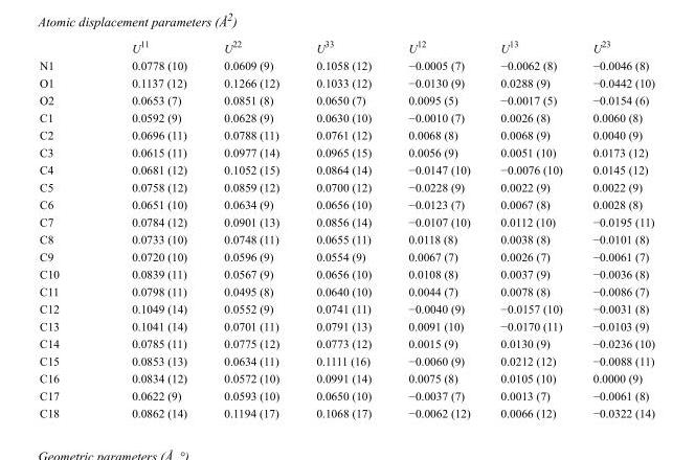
<table><thead><tr><td></td><td>U<sup>11</sup></td><td>U<sup>22</sup></td><td>U<sup>33</sup></td><td>U<sup>12</sup></td><td>U<sup>13</sup></td><td>U<sup>23</sup></td></tr></thead><tbody><tr><td>N1</td><td>0.0778 (10)</td><td>0.0609 (9)</td><td>0.1058 (12)</td><td>−0.0005 (7)</td><td>−0.0062 (8)</td><td>−0.0046 (8)</td></tr><tr><td>O1</td><td>0.1137 (12)</td><td>0.1266 (12)</td><td>0.1033 (12)</td><td>−0.0130 (9)</td><td>0.0288 (9)</td><td>−0.0442 (10)</td></tr><tr><td>O2</td><td>0.0653 (7)</td><td>0.0851 (8)</td><td>0.0650 (7)</td><td>0.0095 (5)</td><td>−0.0017 (5)</td><td>−0.0154 (6)</td></tr><tr><td>C1</td><td>0.0592 (9)</td><td>0.0628 (9)</td><td>0.0630 (10)</td><td>−0.0010 (7)</td><td>0.0026 (8)</td><td>0.0060 (8)</td></tr><tr><td>C2</td><td>0.0696 (11)</td><td>0.0788 (11)</td><td>0.0761 (12)</td><td>0.0068 (8)</td><td>0.0068 (9)</td><td>0.0040 (9)</td></tr><tr><td>C3</td><td>0.0615 (11)</td><td>0.0977 (14)</td><td>0.0965 (15)</td><td>0.0056 (9)</td><td>0.0051 (10)</td><td>0.0173 (12)</td></tr><tr><td>C4</td><td>0.0681 (12)</td><td>0.1052 (15)</td><td>0.0864 (14)</td><td>−0.0147 (10)</td><td>−0.0076 (10)</td><td>0.0145 (12)</td></tr><tr><td>C5</td><td>0.0758 (12)</td><td>0.0859 (12)</td><td>0.0700 (12)</td><td>−0.0228 (9)</td><td>0.0022 (9)</td><td>0.0022 (9)</td></tr><tr><td>C6</td><td>0.0651 (10)</td><td>0.0634 (9)</td><td>0.0656 (10)</td><td>−0.0123 (7)</td><td>0.0067 (8)</td><td>0.0028 (8)</td></tr><tr><td>C7</td><td>0.0784 (12)</td><td>0.0901 (13)</td><td>0.0856 (14)</td><td>−0.0107 (10)</td><td>0.0112 (10)</td><td>−0.0195 (11)</td></tr><tr><td>C8</td><td>0.0733 (10)</td><td>0.0748 (11)</td><td>0.0655 (11)</td><td>0.0118 (8)</td><td>0.0038 (8)</td><td>−0.0101 (8)</td></tr><tr><td>C9</td><td>0.0720 (10)</td><td>0.0596 (9)</td><td>0.0554 (9)</td><td>0.0067 (7)</td><td>0.0026 (7)</td><td>−0.0061 (7)</td></tr><tr><td>C10</td><td>0.0839 (11)</td><td>0.0567 (9)</td><td>0.0656 (10)</td><td>0.0108 (8)</td><td>0.0037 (9)</td><td>−0.0036 (8)</td></tr><tr><td>C11</td><td>0.0798 (11)</td><td>0.0495 (8)</td><td>0.0640 (10)</td><td>0.0044 (7)</td><td>0.0078 (8)</td><td>−0.0086 (7)</td></tr><tr><td>C12</td><td>0.1049 (14)</td><td>0.0552 (9)</td><td>0.0741 (11)</td><td>−0.0040 (9)</td><td>−0.0157 (10)</td><td>−0.0031 (8)</td></tr><tr><td>C13</td><td>0.1041 (14)</td><td>0.0701 (11)</td><td>0.0791 (13)</td><td>0.0091 (10)</td><td>−0.0170 (11)</td><td>−0.0103 (9)</td></tr><tr><td>C14</td><td>0.0785 (11)</td><td>0.0775 (12)</td><td>0.0773 (12)</td><td>0.0015 (9)</td><td>0.0130 (9)</td><td>−0.0236 (10)</td></tr><tr><td>C15</td><td>0.0853 (13)</td><td>0.0634 (11)</td><td>0.1111 (16)</td><td>−0.0060 (9)</td><td>0.0212 (12)</td><td>−0.0088 (11)</td></tr><tr><td>C16</td><td>0.0834 (12)</td><td>0.0572 (10)</td><td>0.0991 (14)</td><td>0.0075 (8)</td><td>0.0105 (10)</td><td>0.0000 (9)</td></tr><tr><td>C17</td><td>0.0622 (9)</td><td>0.0593 (10)</td><td>0.0650 (10)</td><td>−0.0037 (7)</td><td>0.0013 (7)</td><td>−0.0061 (8)</td></tr><tr><td>C18</td><td>0.0862 (14)</td><td>0.1194 (17)</td><td>0.1068 (17)</td><td>−0.0062 (12)</td><td>0.0066 (12)</td><td>−0.0322 (14)</td></tr></tbody></table>